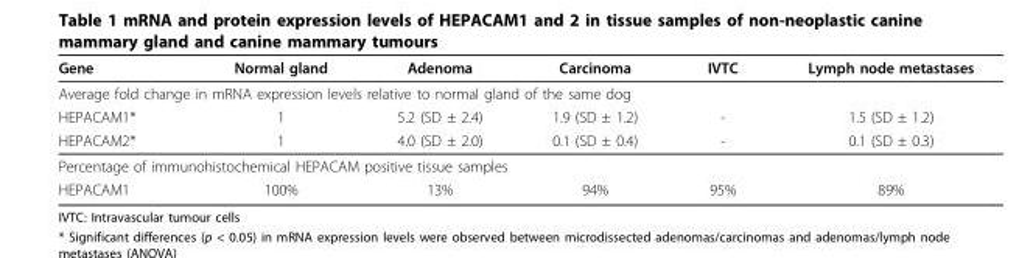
<table><thead><tr><td>Gene</td><td>Normal gland</td><td>Adenoma</td><td>Carcinoma</td><td>IVTC</td><td>Lymph node metastases</td></tr></thead><tbody><tr><td colspan="6">Average fold change in mRNA expression levels relative to normal gland of the same dog</td></tr><tr><td>HEPACAM1*</td><td>1</td><td>5.2 (SD ± 2.4)</td><td>1.9 (SD ± 1.2)</td><td>-</td><td>1.5 (SD ± 1.2)</td></tr><tr><td>HEPACAM2*</td><td>1</td><td>4.0 (SD ± 2.0)</td><td>0.1 (SD ± 0.4)</td><td>-</td><td>0.1 (SD ± 0.3)</td></tr><tr><td colspan="6">Percentage of immunohistochemical HEPACAM positive tissue samples</td></tr><tr><td>HEPACAM1</td><td>100%</td><td>13%</td><td>94%</td><td>95%</td><td>89%</td></tr></tbody></table>